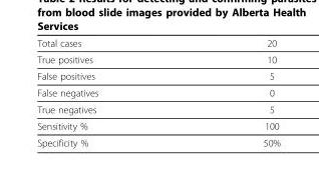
<table><thead><tr><td>Total cases</td><td>20</td></tr></thead><tbody><tr><td>True positives</td><td>10</td></tr><tr><td>False positives</td><td>5</td></tr><tr><td>False negatives</td><td>0</td></tr><tr><td>True negatives</td><td>5</td></tr><tr><td>Sensitivity %</td><td>100</td></tr><tr><td>Specificity %</td><td>50%</td></tr></tbody></table>